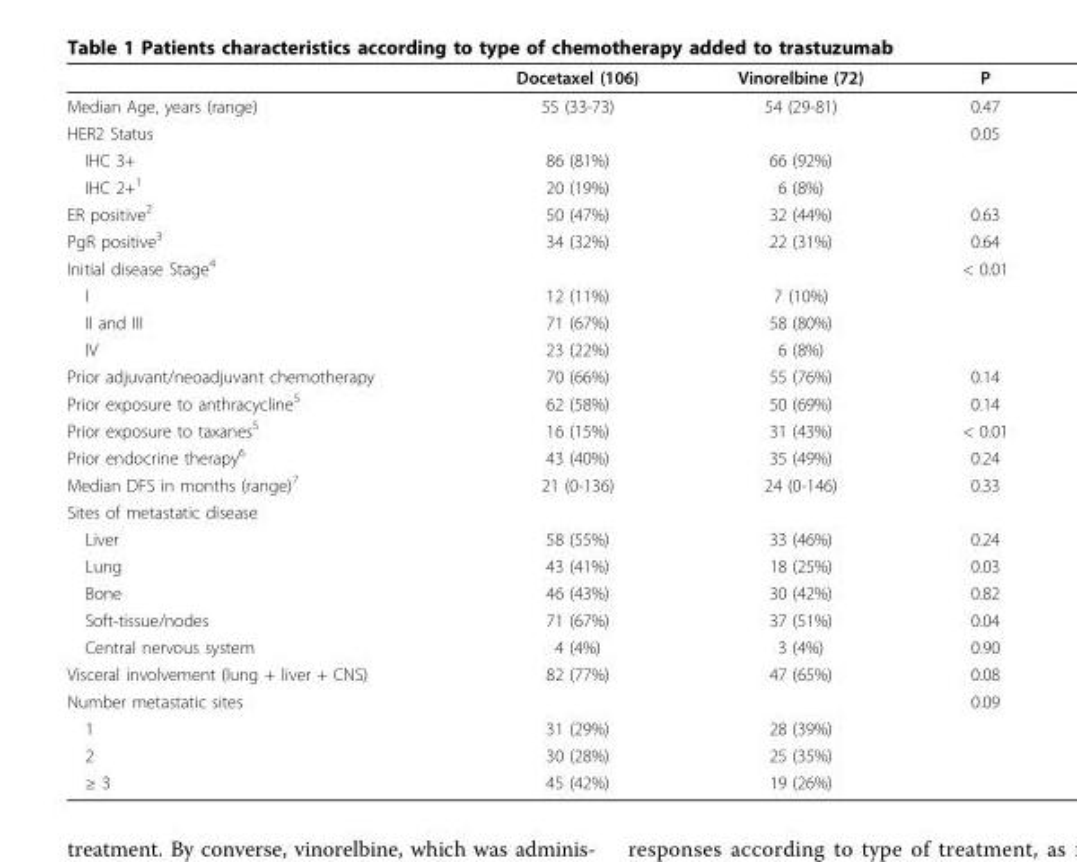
<table><thead><tr><td></td><td>Docetaxel (106)</td><td>Vinorelbine (72)</td><td>P</td></tr></thead><tbody><tr><td>Median Age, years (range)</td><td>55 (33-73)</td><td>54 (29-81)</td><td>0.47</td></tr><tr><td>HER2 Status</td><td></td><td></td><td>0.05</td></tr><tr><td>IHC 3+</td><td>86 (81%)</td><td>66 (92%)</td><td></td></tr><tr><td>IHC 2+<sup>1</sup></td><td>20 (19%)</td><td>6 (8%)</td><td></td></tr><tr><td>ER positive<sup>2</sup></td><td>50 (47%)</td><td>32 (44%)</td><td>0.63</td></tr><tr><td>PgR positive<sup>3</sup></td><td>34 (32%)</td><td>22 (31%)</td><td>0.64</td></tr><tr><td>Initial disease Stage<sup>4</sup></td><td></td><td></td><td>&lt; 0.01</td></tr><tr><td>I</td><td>12 (11%)</td><td>7 (10%)</td><td></td></tr><tr><td>II and III</td><td>71 (67%)</td><td>58 (80%)</td><td></td></tr><tr><td>IV</td><td>23 (22%)</td><td>6 (8%)</td><td></td></tr><tr><td>Prior adjuvant/neoadjuvant chemotherapy</td><td>70 (66%)</td><td>55 (76%)</td><td>0.14</td></tr><tr><td>Prior exposure to anthracycline<sup>5</sup></td><td>62 (58%)</td><td>50 (69%)</td><td>0.14</td></tr><tr><td>Prior exposure to taxanes<sup>5</sup></td><td>16 (15%)</td><td>31 (43%)</td><td>&lt; 0.01</td></tr><tr><td>Prior endocrine therapy<sup>6</sup></td><td>43 (40%)</td><td>35 (49%)</td><td>0.24</td></tr><tr><td>Median DFS in months (range)<sup>7</sup></td><td>21 (0-136)</td><td>24 (0-146)</td><td>0.33</td></tr><tr><td colspan="4">Sites of metastatic disease</td></tr><tr><td>Liver</td><td>58 (55%)</td><td>33 (46%)</td><td>0.24</td></tr><tr><td>Lung</td><td>43 (41%)</td><td>18 (25%)</td><td>0.03</td></tr><tr><td>Bone</td><td>46 (43%)</td><td>30 (42%)</td><td>0.82</td></tr><tr><td>Soft-tissue/nodes</td><td>71 (67%)</td><td>37 (51%)</td><td>0.04</td></tr><tr><td>Central nervous system</td><td>4 (4%)</td><td>3 (4%)</td><td>0.90</td></tr><tr><td>Visceral involvement (lung + liver + CNS)</td><td>82 (77%)</td><td>47 (65%)</td><td>0.08</td></tr><tr><td>Number metastatic sites</td><td></td><td></td><td>0.09</td></tr><tr><td>1</td><td>31 (29%)</td><td>28 (39%)</td><td></td></tr><tr><td>2</td><td>30 (28%)</td><td>25 (35%)</td><td></td></tr><tr><td>≥ 3</td><td>45 (42%)</td><td>19 (26%)</td><td></td></tr></tbody></table>